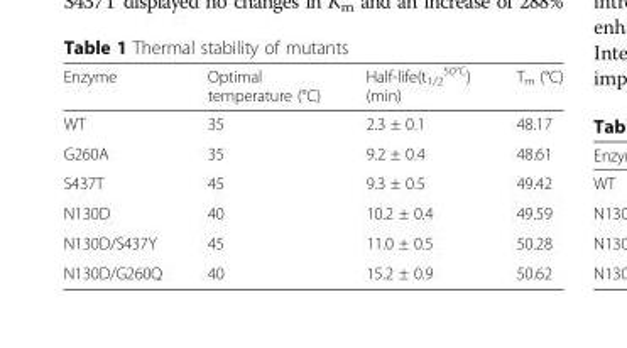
<table><thead><tr><td>Enzyme</td><td>Optimal temperature (°C)</td><td>Half-life(t<sub>1/2</sub> <sup>50°C</sup>) (min)</td><td>T<sub>m</sub> (°C)</td></tr></thead><tbody><tr><td>WT</td><td>35</td><td>2.3 ± 0.1</td><td>48.17</td></tr><tr><td>G260A</td><td>35</td><td>9.2 ± 0.4</td><td>48.61</td></tr><tr><td>S437T</td><td>45</td><td>9.3 ± 0.5</td><td>49.42</td></tr><tr><td>N130D</td><td>40</td><td>10.2 ± 0.4</td><td>49.59</td></tr><tr><td>N130D/S437Y</td><td>45</td><td>11.0 ± 0.5</td><td>50.28</td></tr><tr><td>N130D/G260Q</td><td>40</td><td>15.2 ± 0.9</td><td>50.62</td></tr></tbody></table>